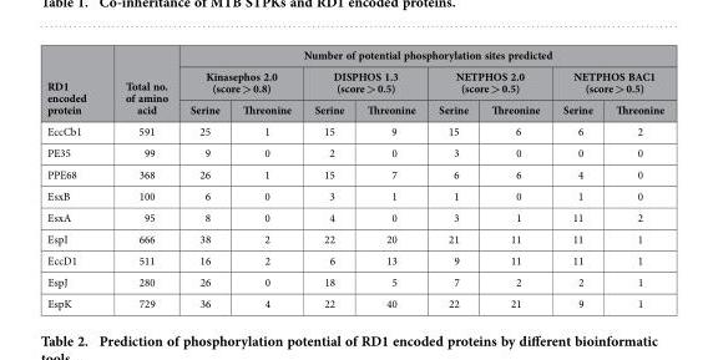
<table><thead><tr><td rowspan="3">RD1 encoded protein</td><td rowspan="3">Total no. of amino acid</td><td colspan="8">Number of potential phosphorylation sites predicted</td></tr><tr><td colspan="2">Kinasephos 2.0 (score &gt; 0.8)</td><td colspan="2">DISPHOS 1.3 (score &gt; 0.5)</td><td colspan="2">NETPHOS 2.0 (score &gt; 0.5)</td><td colspan="2">NETPHOS BAC1 (score &gt; 0.5)</td></tr><tr><td>Serine</td><td>Threonine</td><td>Serine</td><td>Threonine</td><td>Serine</td><td>Threonine</td><td>Serine</td><td>Threonine</td></tr></thead><tbody><tr><td>EccCb1</td><td>591</td><td>25</td><td>1</td><td>15</td><td>9</td><td>15</td><td>6</td><td>6</td><td>2</td></tr><tr><td>PE35</td><td>99</td><td>9</td><td>0</td><td>2</td><td>0</td><td>3</td><td>0</td><td>0</td><td>0</td></tr><tr><td>PPE68</td><td>368</td><td>26</td><td>1</td><td>15</td><td>7</td><td>6</td><td>6</td><td>4</td><td>0</td></tr><tr><td>EsxB</td><td>100</td><td>6</td><td>0</td><td>3</td><td>1</td><td>1</td><td>0</td><td>1</td><td>0</td></tr><tr><td>EsxA</td><td>95</td><td>8</td><td>0</td><td>4</td><td>0</td><td>3</td><td>1</td><td>11</td><td>2</td></tr><tr><td>EspI</td><td>666</td><td>38</td><td>2</td><td>22</td><td>20</td><td>21</td><td>11</td><td>11</td><td>1</td></tr><tr><td>EccD1</td><td>511</td><td>16</td><td>2</td><td>6</td><td>13</td><td>9</td><td>11</td><td>11</td><td>1</td></tr><tr><td>EspJ</td><td>280</td><td>26</td><td>0</td><td>18</td><td>5</td><td>7</td><td>2</td><td>2</td><td>1</td></tr><tr><td>EspK</td><td>729</td><td>36</td><td>4</td><td>22</td><td>40</td><td>22</td><td>21</td><td>9</td><td>1</td></tr></tbody></table>